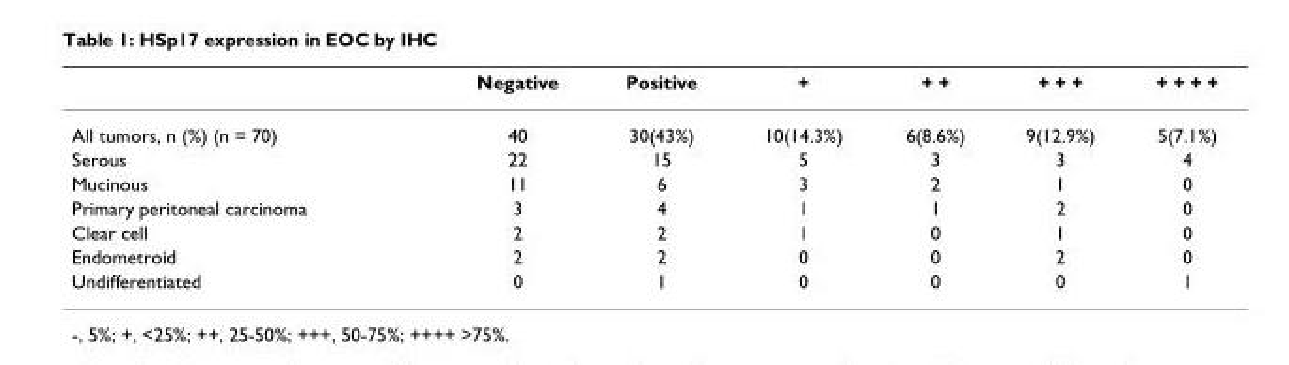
<table><thead><tr><td></td><td>Negative</td><td>Positive</td><td>+</td><td>+ +</td><td>+ + +</td><td>+ + + +</td></tr></thead><tbody><tr><td>All tumors, n (%) (n = 70)</td><td>40</td><td>30(43%)</td><td>10(14.3%)</td><td>6(8.6%)</td><td>9(12.9%)</td><td>5(7.1%)</td></tr><tr><td>Serous</td><td>22</td><td>15</td><td>5</td><td>3</td><td>3</td><td>4</td></tr><tr><td>Mucinous</td><td>11</td><td>6</td><td>3</td><td>2</td><td>1</td><td>0</td></tr><tr><td>Primary peritoneal carcinoma</td><td>3</td><td>4</td><td>1</td><td>1</td><td>2</td><td>0</td></tr><tr><td>Clear cell</td><td>2</td><td>2</td><td>1</td><td>0</td><td>1</td><td>0</td></tr><tr><td>Endometroid</td><td>2</td><td>2</td><td>0</td><td>0</td><td>2</td><td>0</td></tr><tr><td>Undifferentiated</td><td>0</td><td>1</td><td>0</td><td>0</td><td>0</td><td>1</td></tr></tbody></table>